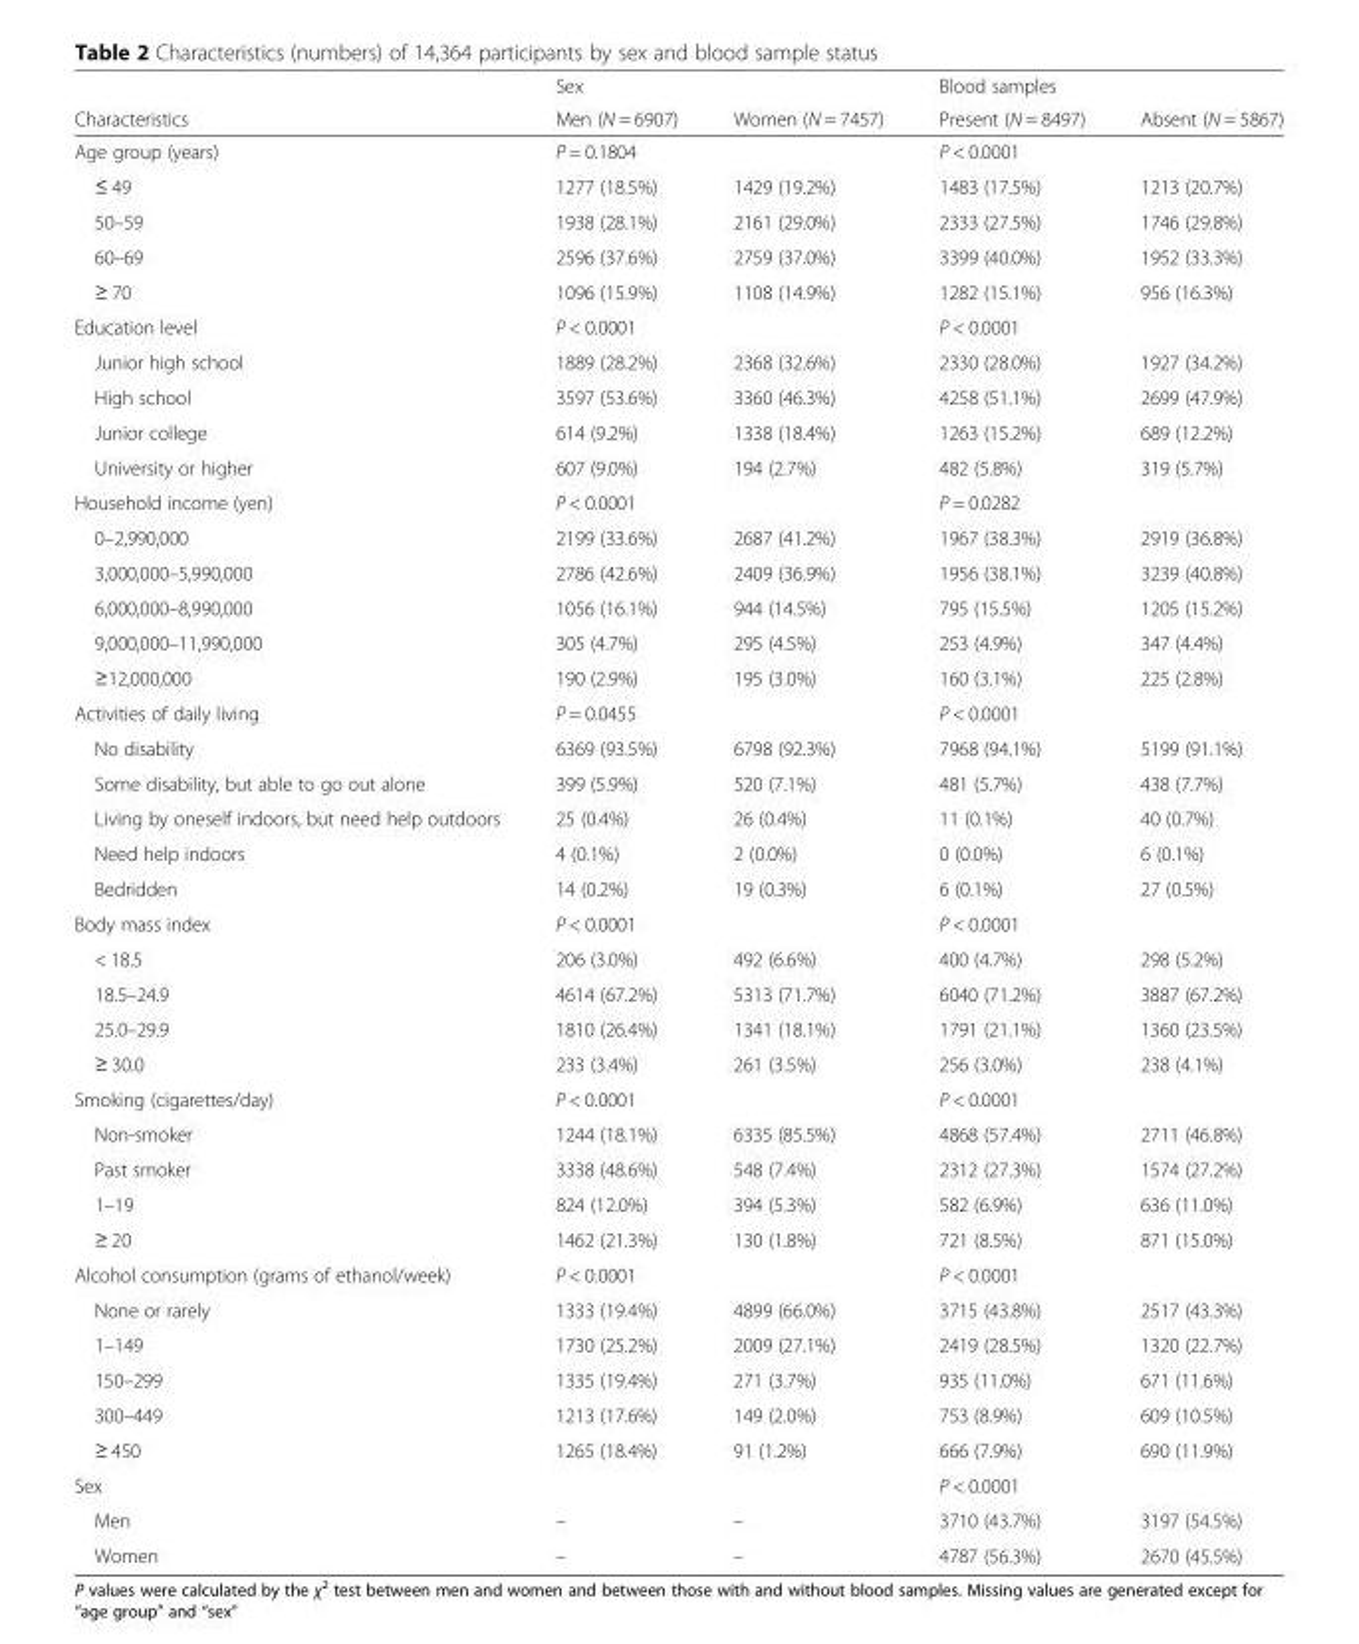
<table><thead><tr><td rowspan="2">Characteristics</td><td rowspan="2">Sex Men (N = 6907)</td><td rowspan="2">Women (N = 7457)</td><td rowspan="2">Blood samples Present (N = 8497)</td><td rowspan="2">Absent (N = 5867)</td></tr><tr></tr></thead><tbody><tr><td>Age group (years)</td><td>P = 0.1804</td><td></td><td>P &lt; 0.0001</td><td></td></tr><tr><td>≤ 49</td><td>1277 (18.5%)</td><td>1429 (19.2%)</td><td>1483 (17.5%)</td><td>1213 (20.7%)</td></tr><tr><td>50–59</td><td>1938 (28.1%)</td><td>2161 (29.0%)</td><td>2333 (27.5%)</td><td>1746 (29.8%)</td></tr><tr><td>60–69</td><td>2596 (37.6%)</td><td>2759 (37.0%)</td><td>3399 (40.0%)</td><td>1952 (33.3%)</td></tr><tr><td>≥ 70</td><td>1096 (15.9%)</td><td>1108 (14.9%)</td><td>1282 (15.1%)</td><td>956 (16.3%)</td></tr><tr><td>Education level</td><td>P &lt; 0.0001</td><td></td><td>P &lt; 0.0001</td><td></td></tr><tr><td>Junior high school</td><td>1889 (28.2%)</td><td>2368 (32.6%)</td><td>2330 (28.0%)</td><td>1927 (34.2%)</td></tr><tr><td>High school</td><td>3597 (53.6%)</td><td>3360 (46.3%)</td><td>4258 (51.1%)</td><td>2699 (47.9%)</td></tr><tr><td>Junior college</td><td>614 (9.2%)</td><td>1338 (18.4%)</td><td>1263 (15.2%)</td><td>689 (12.2%)</td></tr><tr><td>University or higher</td><td>607 (9.0%)</td><td>194 (2.7%)</td><td>482 (5.8%)</td><td>319 (5.7%)</td></tr><tr><td>Household income (yen)</td><td>P &lt; 0.0001</td><td></td><td>P = 0.0282</td><td></td></tr><tr><td>0–2,990,000</td><td>2199 (33.6%)</td><td>2687 (41.2%)</td><td>1967 (38.3%)</td><td>2919 (36.8%)</td></tr><tr><td>3,000,000–5,990,000</td><td>2786 (42.6%)</td><td>2409 (36.9%)</td><td>1956 (38.1%)</td><td>3239 (40.8%)</td></tr><tr><td>6,000,000–8,990,000</td><td>1056 (16.1%)</td><td>944 (14.5%)</td><td>795 (15.5%)</td><td>1205 (15.2%)</td></tr><tr><td>9,000,000–11,990,000</td><td>305 (4.7%)</td><td>295 (4.5%)</td><td>253 (4.9%)</td><td>347 (4.4%)</td></tr><tr><td>≥12,000,000</td><td>190 (2.9%)</td><td>195 (3.0%)</td><td>160 (3.1%)</td><td>225 (2.8%)</td></tr><tr><td>Activities of daily living</td><td>P = 0.0455</td><td></td><td>P &lt; 0.0001</td><td></td></tr><tr><td>No disability</td><td>6369 (93.5%)</td><td>6798 (92.3%)</td><td>7968 (94.1%)</td><td>5199 (91.1%)</td></tr><tr><td>Some disability, but able to go out alone</td><td>399 (5.9%)</td><td>520 (7.1%)</td><td>481 (5.7%)</td><td>438 (7.7%)</td></tr><tr><td>Living by oneself indoors, but need help outdoors</td><td>25 (0.4%)</td><td>26 (0.4%)</td><td>11 (0.1%)</td><td>40 (0.7%)</td></tr><tr><td>Need help indoors</td><td>4 (0.1%)</td><td>2 (0.0%)</td><td>0 (0.0%)</td><td>6 (0.1%)</td></tr><tr><td>Bedridden</td><td>14 (0.2%)</td><td>19 (0.3%)</td><td>6 (0.1%)</td><td>27 (0.5%)</td></tr><tr><td>Body mass index</td><td>P &lt; 0.0001</td><td></td><td>P &lt; 0.0001</td><td></td></tr><tr><td>&lt; 18.5</td><td>206 (3.0%)</td><td>492 (6.6%)</td><td>400 (4.7%)</td><td>298 (5.2%)</td></tr><tr><td>18.5–24.9</td><td>4614 (67.2%)</td><td>5313 (71.7%)</td><td>6040 (71.2%)</td><td>3887 (67.2%)</td></tr><tr><td>25.0–29.9</td><td>1810 (26.4%)</td><td>1341 (18.1%)</td><td>1791 (21.1%)</td><td>1360 (23.5%)</td></tr><tr><td>≥ 30.0</td><td>233 (3.4%)</td><td>261 (3.5%)</td><td>256 (3.0%)</td><td>238 (4.1%)</td></tr><tr><td>Smoking (cigarettes/day)</td><td>P &lt; 0.0001</td><td></td><td>P &lt; 0.0001</td><td></td></tr><tr><td>Non-smoker</td><td>1244 (18.1%)</td><td>6335 (85.5%)</td><td>4868 (57.4%)</td><td>2711 (46.8%)</td></tr><tr><td>Past smoker</td><td>3338 (48.6%)</td><td>548 (7.4%)</td><td>2312 (27.3%)</td><td>1574 (27.2%)</td></tr><tr><td>1–19</td><td>824 (12.0%)</td><td>394 (5.3%)</td><td>582 (6.9%)</td><td>636 (11.0%)</td></tr><tr><td>≥ 20</td><td>1462 (21.3%)</td><td>130 (1.8%)</td><td>721 (8.5%)</td><td>871 (15.0%)</td></tr><tr><td>Alcohol consumption (grams of ethanol/week)</td><td>P &lt; 0.0001</td><td></td><td>P &lt; 0.0001</td><td></td></tr><tr><td>None or rarely</td><td>1333 (19.4%)</td><td>4899 (66.0%)</td><td>3715 (43.8%)</td><td>2517 (43.3%)</td></tr><tr><td>1–149</td><td>1730 (25.2%)</td><td>2009 (27.1%)</td><td>2419 (28.5%)</td><td>1320 (22.7%)</td></tr><tr><td>150–299</td><td>1335 (19.4%)</td><td>271 (3.7%)</td><td>935 (11.0%)</td><td>671 (11.6%)</td></tr><tr><td>300–449</td><td>1213 (17.6%)</td><td>149 (2.0%)</td><td>753 (8.9%)</td><td>609 (10.5%)</td></tr><tr><td>≥ 450</td><td>1265 (18.4%)</td><td>91 (1.2%)</td><td>666 (7.9%)</td><td>690 (11.9%)</td></tr><tr><td>Sex</td><td></td><td></td><td>P &lt; 0.0001</td><td></td></tr><tr><td>Men</td><td>–</td><td>–</td><td>3710 (43.7%)</td><td>3197 (54.5%)</td></tr><tr><td>Women</td><td>–</td><td>–</td><td>4787 (56.3%)</td><td>2670 (45.5%)</td></tr></tbody></table>